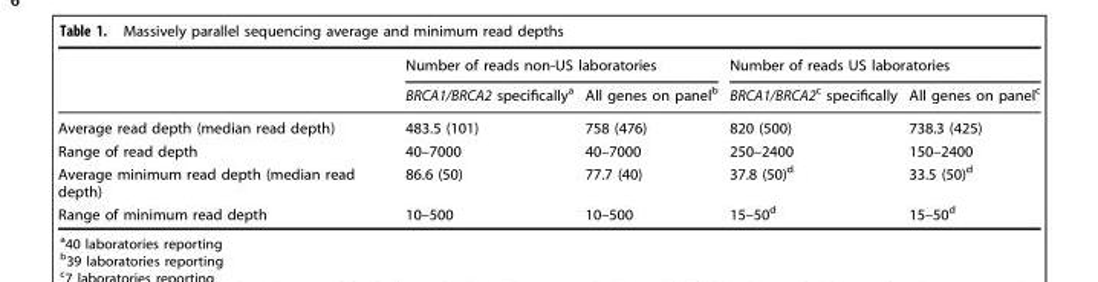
<table><thead><tr><td rowspan="2"></td><td colspan="2">Number of reads non-US laboratories</td><td colspan="2">Number of reads US laboratories</td></tr><tr><td>BRCA1/BRCA2 specifically<sup>a</sup></td><td>All genes on panel<sup>b</sup></td><td>BRCA1/BRCA2<sup>c</sup> specifically</td><td>All genes on panel<sup>c</sup></td></tr></thead><tbody><tr><td>Average read depth (median read depth)</td><td>483.5 (101)</td><td>758 (476)</td><td>820 (500)</td><td>738.3 (425)</td></tr><tr><td>Range of read depth</td><td>40–7000</td><td>40–7000</td><td>250–2400</td><td>150–2400</td></tr><tr><td>Average minimum read depth (median read depth)</td><td>86.6 (50)</td><td>77.7 (40)</td><td>37.8 (50)<sup>d</sup></td><td>33.5 (50)<sup>d</sup></td></tr><tr><td>Range of minimum read depth</td><td>10–500</td><td>10–500</td><td>15–50<sup>d</sup></td><td>15–50<sup>d</sup></td></tr></tbody></table>